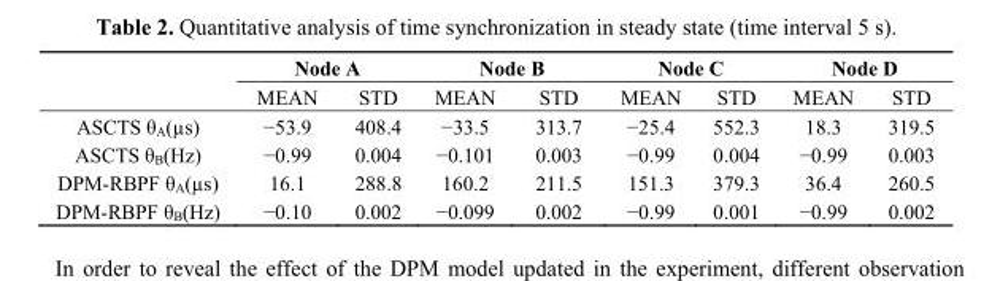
<table><thead><tr><td rowspan="2"></td><td colspan="2">Node A</td><td colspan="2">Node B</td><td colspan="2">Node C</td><td colspan="2">Node D</td></tr><tr><td>MEAN</td><td>STD</td><td>MEAN</td><td>STD</td><td>MEAN</td><td>STD</td><td>MEAN</td><td>STD</td></tr></thead><tbody><tr><td>ASCTS θ<sub>A</sub>(µs)</td><td>−53.9</td><td>408.4</td><td>−33.5</td><td>313.7</td><td>−25.4</td><td>552.3</td><td>18.3</td><td>319.5</td></tr><tr><td>ASCTS θ<sub>B</sub>(Hz)</td><td>−0.99</td><td>0.004</td><td>−0.101</td><td>0.003</td><td>−0.99</td><td>0.004</td><td>−0.99</td><td>0.003</td></tr><tr><td>DPM-RBPF θ<sub>A</sub>(µs)</td><td>16.1</td><td>288.8</td><td>160.2</td><td>211.5</td><td>151.3</td><td>379.3</td><td>36.4</td><td>260.5</td></tr><tr><td>DPM-RBPF θ<sub>B</sub>(Hz)</td><td>−0.10</td><td>0.002</td><td>−0.099</td><td>0.002</td><td>−0.99</td><td>0.001</td><td>−0.99</td><td>0.002</td></tr></tbody></table>